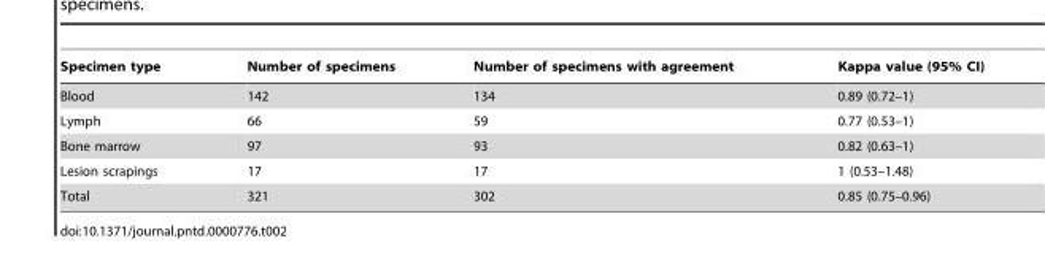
<table><thead><tr><td>Specimen type</td><td>Number of specimens</td><td>Number of specimens with agreement</td><td>Kappa value (95% CI)</td></tr></thead><tbody><tr><td>Blood</td><td>142</td><td>134</td><td>0.89 (0.72–1)</td></tr><tr><td>Lymph</td><td>66</td><td>59</td><td>0.77 (0.53–1)</td></tr><tr><td>Bone marrow</td><td>97</td><td>93</td><td>0.82 (0.63–1)</td></tr><tr><td>Lesion scrapings</td><td>17</td><td>17</td><td>1 (0.53–1.48)</td></tr><tr><td>Total</td><td>321</td><td>302</td><td>0.85 (0.75–0.96)</td></tr></tbody></table>